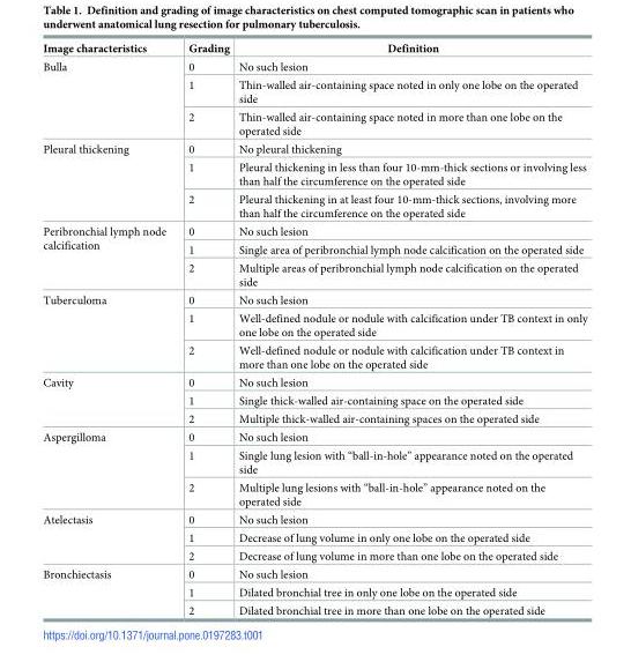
<table><thead><tr><td>Image characteristics</td><td>Grading</td><td>Definition</td></tr></thead><tbody><tr><td rowspan="3">Bulla</td><td>0</td><td>No such lesion</td></tr><tr><td>1</td><td>Thin-walled air-containing space noted in only one lobe on the operated side</td></tr><tr><td>2</td><td>Thin-walled air-containing space noted in more than one lobe on the operated side</td></tr><tr><td rowspan="3">Pleural thickening</td><td>0</td><td>No pleural thickening</td></tr><tr><td>1</td><td>Pleural thickening in less than four 10-mm-thick sections or involving less than half the circumference on the operated side</td></tr><tr><td>2</td><td>Pleural thickening in at least four 10-mm-thick sections, involving more than half the circumference on the operated side</td></tr><tr><td rowspan="3">Peribronchial lymph node calcification</td><td>0</td><td>No such lesion</td></tr><tr><td>1</td><td>Single area of peribronchial lymph node calcification on the operated side</td></tr><tr><td>2</td><td>Multiple areas of peribronchial lymph node calcification on the operated side</td></tr><tr><td rowspan="3">Tuberculoma</td><td>0</td><td>No such lesion</td></tr><tr><td>1</td><td>Well-defined nodule or nodule with calcification under TB context in only one lobe on the operated side</td></tr><tr><td>2</td><td>Well-defined nodule or nodule with calcification under TB context in more than one lobe on the operated side</td></tr><tr><td rowspan="3">Cavity</td><td>0</td><td>No such lesion</td></tr><tr><td>1</td><td>Single thick-walled air-containing space on the operated side</td></tr><tr><td>2</td><td>Multiple thick-walled air-containing spaces on the operated side</td></tr><tr><td rowspan="3">Aspergilloma</td><td>0</td><td>No such lesion</td></tr><tr><td>1</td><td>Single lung lesion with “ball-in-hole” appearance noted on the operated side</td></tr><tr><td>2</td><td>Multiple lung lesions with “ball-in-hole” appearance noted on the operated side</td></tr><tr><td rowspan="3">Atelectasis</td><td>0</td><td>No such lesion</td></tr><tr><td>1</td><td>Decrease of lung volume in only one lobe on the operated side</td></tr><tr><td>2</td><td>Decrease of lung volume in more than one lobe on the operated side</td></tr><tr><td rowspan="3">Bronchiectasis</td><td>0</td><td>No such lesion</td></tr><tr><td>1</td><td>Dilated bronchial tree in only one lobe on the operated side</td></tr><tr><td>2</td><td>Dilated bronchial tree in more than one lobe on the operated side</td></tr></tbody></table>